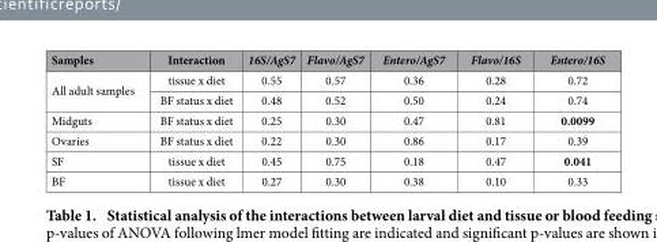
<table><thead><tr><td>Samples</td><td>Interaction</td><td>16S/AgS7</td><td>Flavo/AgS7</td><td>Entero/AgS7</td><td>Flavo/16S</td><td>Entero/16S</td></tr></thead><tbody><tr><td rowspan="2">All adult samples</td><td>tissue x diet</td><td>0.55</td><td>0.57</td><td>0.36</td><td>0.28</td><td>0.72</td></tr><tr><td>BF status x diet</td><td>0.48</td><td>0.52</td><td>0.50</td><td>0.24</td><td>0.74</td></tr><tr><td>Midguts</td><td>BF status x diet</td><td>0.25</td><td>0.30</td><td>0.47</td><td>0.81</td><td>0.0099</td></tr><tr><td>Ovaries</td><td>BF status x diet</td><td>0.22</td><td>0.30</td><td>0.86</td><td>0.17</td><td>0.39</td></tr><tr><td>SF</td><td>tissue x diet</td><td>0.45</td><td>0.75</td><td>0.18</td><td>0.47</td><td>0.041</td></tr><tr><td>BF</td><td>tissue x diet</td><td>0.27</td><td>0.30</td><td>0.38</td><td>0.10</td><td>0.33</td></tr></tbody></table>